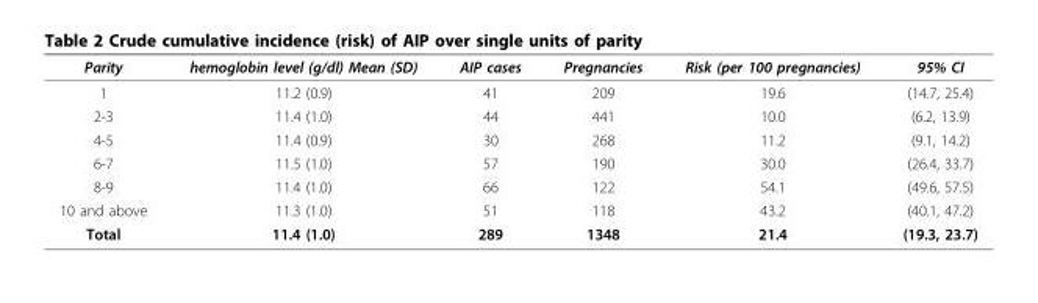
<table><thead><tr><td>Parity</td><td>hemoglobin level (g/dl) Mean (SD)</td><td>AIP cases</td><td>Pregnancies</td><td>Risk (per 100 pregnancies)</td><td>95% CI</td></tr></thead><tbody><tr><td>1</td><td>11.2 (0.9)</td><td>41</td><td>209</td><td>19.6</td><td>(14.7, 25.4)</td></tr><tr><td>2-3</td><td>11.4 (1.0)</td><td>44</td><td>441</td><td>10.0</td><td>(6.2, 13.9)</td></tr><tr><td>4-5</td><td>11.4 (0.9)</td><td>30</td><td>268</td><td>11.2</td><td>(9.1, 14.2)</td></tr><tr><td>6-7</td><td>11.5 (1.0)</td><td>57</td><td>190</td><td>30.0</td><td>(26.4, 33.7)</td></tr><tr><td>8-9</td><td>11.4 (1.0)</td><td>66</td><td>122</td><td>54.1</td><td>(49.6, 57.5)</td></tr><tr><td>10 and above</td><td>11.3 (1.0)</td><td>51</td><td>118</td><td>43.2</td><td>(40.1, 47.2)</td></tr><tr><td>Total</td><td>11.4 (1.0)</td><td>289</td><td>1348</td><td>21.4</td><td>(19.3, 23.7)</td></tr></tbody></table>